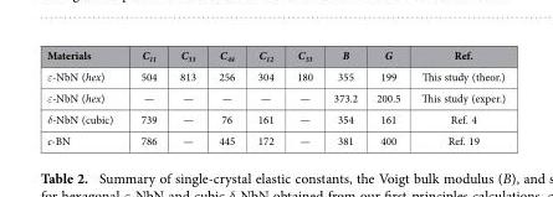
<table><thead><tr><td>Materials</td><td>C<sub>11</sub></td><td>C<sub>33</sub></td><td>C<sub>44</sub></td><td>C<sub>12</sub></td><td>C<sub>33</sub></td><td>B</td><td>G</td><td>Ref.</td></tr></thead><tbody><tr><td>ε-NbN (hex)</td><td>504</td><td>813</td><td>256</td><td>304</td><td>180</td><td>355</td><td>199</td><td>This study (theor.)</td></tr><tr><td>ε-NbN (hex)</td><td>—</td><td>—</td><td>—</td><td>—</td><td>—</td><td>373.2</td><td>200.5</td><td>This study (exper.)</td></tr><tr><td>δ-NbN (cubic)</td><td>739</td><td>—</td><td>76</td><td>161</td><td>—</td><td>354</td><td>161</td><td>Ref. 4</td></tr><tr><td>c-BN</td><td>786</td><td>—</td><td>445</td><td>172</td><td>—</td><td>381</td><td>400</td><td>Ref. 19</td></tr></tbody></table>